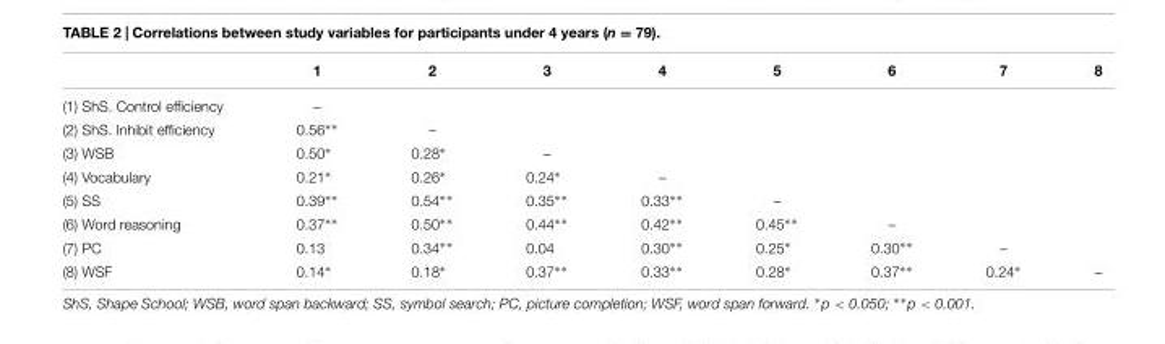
<table><thead><tr><td></td><td>1</td><td>2</td><td>3</td><td>4</td><td>5</td><td>6</td><td>7</td><td>8</td></tr></thead><tbody><tr><td>(1) ShS. Control efficiency</td><td>–</td><td></td><td></td><td></td><td></td><td></td><td></td><td></td></tr><tr><td>(2) ShS. Inhibit efficiency</td><td>0.56∗∗</td><td>–</td><td></td><td></td><td></td><td></td><td></td><td></td></tr><tr><td>(3) WSB</td><td>0.50∗</td><td>0.28∗</td><td>–</td><td></td><td></td><td></td><td></td><td></td></tr><tr><td>(4) Vocabulary</td><td>0.21∗</td><td>0.26∗</td><td>0.24∗</td><td>–</td><td></td><td></td><td></td><td></td></tr><tr><td>(5) SS</td><td>0.39∗∗</td><td>0.54∗∗</td><td>0.35∗∗</td><td>0.33∗∗</td><td>–</td><td></td><td></td><td></td></tr><tr><td>(6) Word reasoning</td><td>0.37∗∗</td><td>0.50∗∗</td><td>0.44∗∗</td><td>0.42∗∗</td><td>0.45∗∗</td><td>–</td><td></td><td></td></tr><tr><td>(7) PC</td><td>0.13</td><td>0.34∗∗</td><td>0.04</td><td>0.30∗∗</td><td>0.25∗</td><td>0.30∗∗</td><td>–</td><td></td></tr><tr><td>(8) WSF</td><td>0.14∗</td><td>0.18∗</td><td>0.37∗∗</td><td>0.33∗∗</td><td>0.28∗</td><td>0.37∗∗</td><td>0.24∗</td><td>–</td></tr></tbody></table>